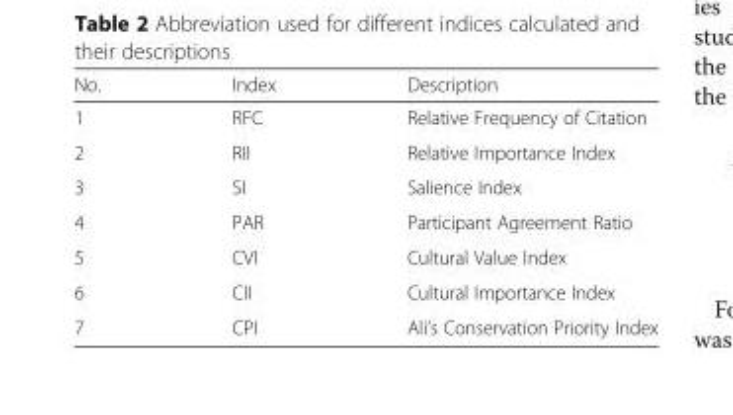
<table><thead><tr><td>No.</td><td>Index</td><td>Description</td></tr></thead><tbody><tr><td>1</td><td>RFC</td><td>Relative Frequency of Citation</td></tr><tr><td>2</td><td>RII</td><td>Relative Importance Index</td></tr><tr><td>3</td><td>SI</td><td>Salience Index</td></tr><tr><td>4</td><td>PAR</td><td>Participant Agreement Ratio</td></tr><tr><td>5</td><td>CVI</td><td>Cultural Value Index</td></tr><tr><td>6</td><td>CII</td><td>Cultural Importance Index</td></tr><tr><td>7</td><td>CPI</td><td>Ali’s Conservation Priority Index</td></tr></tbody></table>